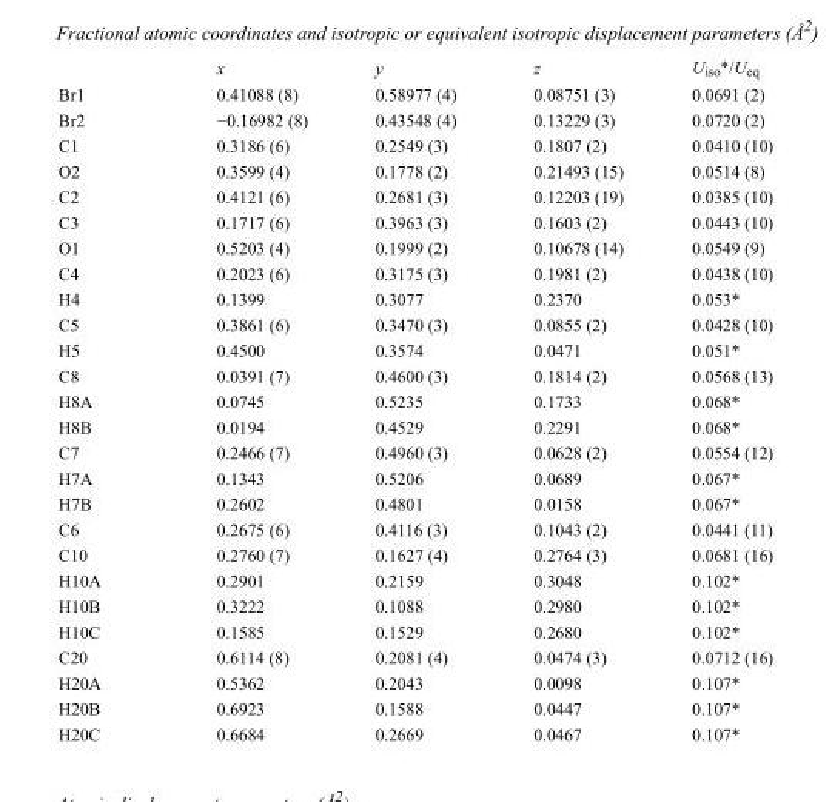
<table><thead><tr><td></td><td>x</td><td>y</td><td>z</td><td>U<sub>iso</sub>*/U<sub>eq</sub></td></tr></thead><tbody><tr><td>Br1</td><td>0.41088 (8)</td><td>0.58977 (4)</td><td>0.08751 (3)</td><td>0.0691 (2)</td></tr><tr><td>Br2</td><td>−0.16982 (8)</td><td>0.43548 (4)</td><td>0.13229 (3)</td><td>0.0720 (2)</td></tr><tr><td>C1</td><td>0.3186 (6)</td><td>0.2549 (3)</td><td>0.1807 (2)</td><td>0.0410 (10)</td></tr><tr><td>O2</td><td>0.3599 (4)</td><td>0.1778 (2)</td><td>0.21493 (15)</td><td>0.0514 (8)</td></tr><tr><td>C2</td><td>0.4121 (6)</td><td>0.2681 (3)</td><td>0.12203 (19)</td><td>0.0385 (10)</td></tr><tr><td>C3</td><td>0.1717 (6)</td><td>0.3963 (3)</td><td>0.1603 (2)</td><td>0.0443 (10)</td></tr><tr><td>O1</td><td>0.5203 (4)</td><td>0.1999 (2)</td><td>0.10678 (14)</td><td>0.0549 (9)</td></tr><tr><td>C4</td><td>0.2023 (6)</td><td>0.3175 (3)</td><td>0.1981 (2)</td><td>0.0438 (10)</td></tr><tr><td>H4</td><td>0.1399</td><td>0.3077</td><td>0.2370</td><td>0.053*</td></tr><tr><td>C5</td><td>0.3861 (6)</td><td>0.3470 (3)</td><td>0.0855 (2)</td><td>0.0428 (10)</td></tr><tr><td>H5</td><td>0.4500</td><td>0.3574</td><td>0.0471</td><td>0.051*</td></tr><tr><td>C8</td><td>0.0391 (7)</td><td>0.4600 (3)</td><td>0.1814 (2)</td><td>0.0568 (13)</td></tr><tr><td>H8A</td><td>0.0745</td><td>0.5235</td><td>0.1733</td><td>0.068*</td></tr><tr><td>H8B</td><td>0.0194</td><td>0.4529</td><td>0.2291</td><td>0.068*</td></tr><tr><td>C7</td><td>0.2466 (7)</td><td>0.4960 (3)</td><td>0.0628 (2)</td><td>0.0554 (12)</td></tr><tr><td>H7A</td><td>0.1343</td><td>0.5206</td><td>0.0689</td><td>0.067*</td></tr><tr><td>H7B</td><td>0.2602</td><td>0.4801</td><td>0.0158</td><td>0.067*</td></tr><tr><td>C6</td><td>0.2675 (6)</td><td>0.4116 (3)</td><td>0.1043 (2)</td><td>0.0441 (11)</td></tr><tr><td>C10</td><td>0.2760 (7)</td><td>0.1627 (4)</td><td>0.2764 (3)</td><td>0.0681 (16)</td></tr><tr><td>H10A</td><td>0.2901</td><td>0.2159</td><td>0.3048</td><td>0.102*</td></tr><tr><td>H10B</td><td>0.3222</td><td>0.1088</td><td>0.2980</td><td>0.102*</td></tr><tr><td>H10C</td><td>0.1585</td><td>0.1529</td><td>0.2680</td><td>0.102*</td></tr><tr><td>C20</td><td>0.6114 (8)</td><td>0.2081 (4)</td><td>0.0474 (3)</td><td>0.0712 (16)</td></tr><tr><td>H20A</td><td>0.5362</td><td>0.2043</td><td>0.0098</td><td>0.107*</td></tr><tr><td>H20B</td><td>0.6923</td><td>0.1588</td><td>0.0447</td><td>0.107*</td></tr><tr><td>H20C</td><td>0.6684</td><td>0.2669</td><td>0.0467</td><td>0.107*</td></tr></tbody></table>